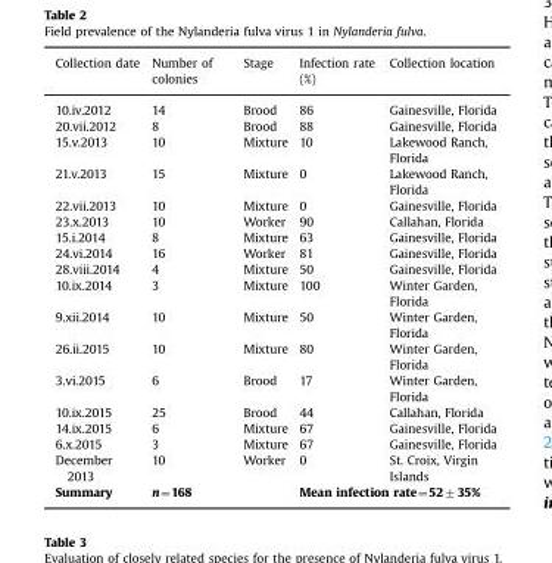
<table><thead><tr><td>Collection date</td><td>Number of colonies</td><td>Stage</td><td>Infection rate (%)</td><td>Collection location</td></tr></thead><tbody><tr><td>10.iv.2012</td><td>14</td><td>Brood</td><td>86</td><td>Gainesville, Florida</td></tr><tr><td>20.vii.2012</td><td>8</td><td>Brood</td><td>88</td><td>Gainesville, Florida</td></tr><tr><td>15.v.2013</td><td>10</td><td>Mixture</td><td>10</td><td>Lakewood Ranch, Florida</td></tr><tr><td>21.v.2013</td><td>15</td><td>Mixture</td><td>0</td><td>Lakewood Ranch, Florida</td></tr><tr><td>22.vii.2013</td><td>10</td><td>Mixture</td><td>0</td><td>Gainesville, Florida</td></tr><tr><td>23.x.2013</td><td>10</td><td>Worker</td><td>90</td><td>Callahan, Florida</td></tr><tr><td>15.i.2014</td><td>8</td><td>Mixture</td><td>63</td><td>Gainesville, Florida</td></tr><tr><td>24.vi.2014</td><td>16</td><td>Worker</td><td>81</td><td>Gainesville, Florida</td></tr><tr><td>28.viii.2014</td><td>4</td><td>Mixture</td><td>50</td><td>Gainesville, Florida</td></tr><tr><td>10.ix.2014</td><td>3</td><td>Mixture</td><td>100</td><td>Winter Garden, Florida</td></tr><tr><td>9.xii.2014</td><td>10</td><td>Mixture</td><td>50</td><td>Winter Garden, Florida</td></tr><tr><td>26.ii.2015</td><td>10</td><td>Mixture</td><td>80</td><td>Winter Garden, Florida</td></tr><tr><td>3.vi.2015</td><td>6</td><td>Brood</td><td>17</td><td>Winter Garden, Florida</td></tr><tr><td>10.ix.2015</td><td>25</td><td>Brood</td><td>44</td><td>Callahan, Florida</td></tr><tr><td>14.ix.2015</td><td>6</td><td>Mixture</td><td>67</td><td>Gainesville, Florida</td></tr><tr><td>6.x.2015</td><td>3</td><td>Mixture</td><td>67</td><td>Gainesville, Florida</td></tr><tr><td>December 2013</td><td>10</td><td>Worker</td><td>0</td><td>St. Croix, Virgin Islands</td></tr><tr><td>Summary</td><td>n=168</td><td></td><td colspan="2">Mean infection rate=52±35%</td></tr></tbody></table>